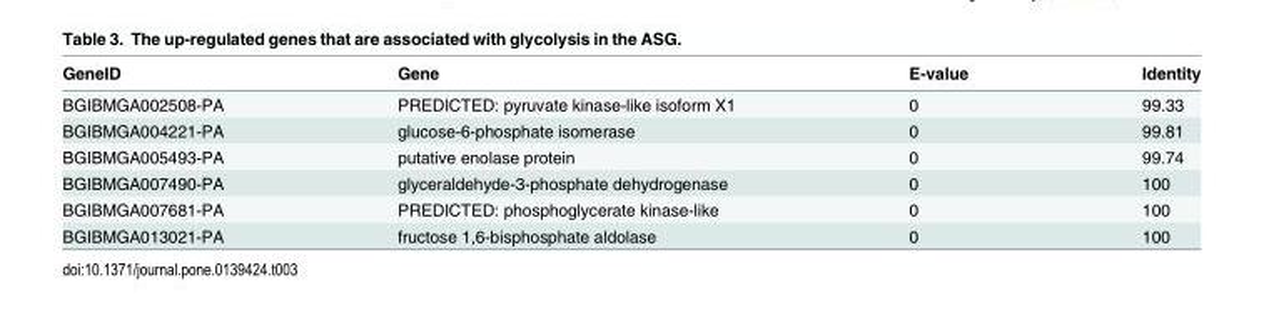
<table><thead><tr><td>GeneID</td><td>Gene</td><td>E-value</td><td>Identity</td></tr></thead><tbody><tr><td>BGIBMGA002508-PA</td><td>PREDICTED: pyruvate kinase-like isoform X1</td><td>0</td><td>99.33</td></tr><tr><td>BGIBMGA004221-PA</td><td>glucose-6-phosphate isomerase</td><td>0</td><td>99.81</td></tr><tr><td>BGIBMGA005493-PA</td><td>putative enolase protein</td><td>0</td><td>99.74</td></tr><tr><td>BGIBMGA007490-PA</td><td>glyceraldehyde-3-phosphate dehydrogenase</td><td>0</td><td>100</td></tr><tr><td>BGIBMGA007681-PA</td><td>PREDICTED: phosphoglycerate kinase-like</td><td>0</td><td>100</td></tr><tr><td>BGIBMGA013021-PA</td><td>fructose 1,6-bisphosphate aldolase</td><td>0</td><td>100</td></tr></tbody></table>